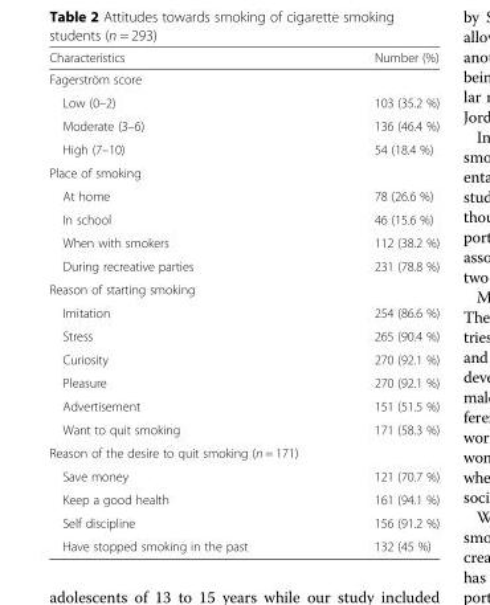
<table><thead><tr><td>Characteristics</td><td>Number (%)</td></tr></thead><tbody><tr><td colspan="2">Fagerström score</td></tr><tr><td>Low (0–2)</td><td>103 (35.2 %)</td></tr><tr><td>Moderate (3–6)</td><td>136 (46.4 %)</td></tr><tr><td>High (7–10)</td><td>54 (18.4 %)</td></tr><tr><td colspan="2">Place of smoking</td></tr><tr><td>At home</td><td>78 (26.6 %)</td></tr><tr><td>In school</td><td>46 (15.6 %)</td></tr><tr><td>When with smokers</td><td>112 (38.2 %)</td></tr><tr><td>During recreative parties</td><td>231 (78.8 %)</td></tr><tr><td colspan="2">Reason of starting smoking</td></tr><tr><td>Imitation</td><td>254 (86.6 %)</td></tr><tr><td>Stress</td><td>265 (90.4 %)</td></tr><tr><td>Curiosity</td><td>270 (92.1 %)</td></tr><tr><td>Pleasure</td><td>270 (92.1 %)</td></tr><tr><td>Advertisement</td><td>151 (51.5 %)</td></tr><tr><td>Want to quit smoking</td><td>171 (58.3 %)</td></tr><tr><td colspan="2">Reason of the desire to quit smoking (n = 171)</td></tr><tr><td>Save money</td><td>121 (70.7 %)</td></tr><tr><td>Keep a good health</td><td>161 (94.1 %)</td></tr><tr><td>Self discipline</td><td>156 (91.2 %)</td></tr><tr><td>Have stopped smoking in the past</td><td>132 (45 %)</td></tr></tbody></table>